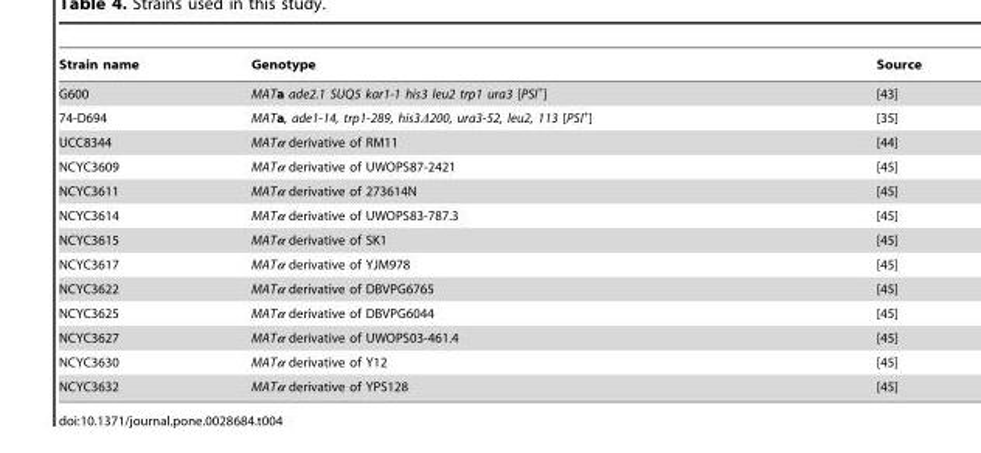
<table><thead><tr><td>Strain name</td><td>Genotype</td><td>Source</td></tr></thead><tbody><tr><td>G600</td><td>MATa ade2.1 SUQ5 kar1-1 his3 leu2 trp1 ura3 [PSI<sup>+</sup>]</td><td>[43]</td></tr><tr><td>74-D694</td><td>MATa, ade1-14, trp1-289, his3Δ200, ura3-52, leu2, 113 [PSI<sup>+</sup>]</td><td>[35]</td></tr><tr><td>UCC8344</td><td>MATα derivative of RM11</td><td>[44]</td></tr><tr><td>NCYC3609</td><td>MATα derivative of UWOPS87-2421</td><td>[45]</td></tr><tr><td>NCYC3611</td><td>MATα derivative of 273614N</td><td>[45]</td></tr><tr><td>NCYC3614</td><td>MATα derivative of UWOPS83-787.3</td><td>[45]</td></tr><tr><td>NCYC3615</td><td>MATα derivative of SK1</td><td>[45]</td></tr><tr><td>NCYC3617</td><td>MATα derivative of YJM978</td><td>[45]</td></tr><tr><td>NCYC3622</td><td>MATα derivative of DBVPG6765</td><td>[45]</td></tr><tr><td>NCYC3625</td><td>MATα derivative of DBVPG6044</td><td>[45]</td></tr><tr><td>NCYC3627</td><td>MATα derivative of UWOPS03-461.4</td><td>[45]</td></tr><tr><td>NCYC3630</td><td>MATα derivative of Y12</td><td>[45]</td></tr><tr><td>NCYC3632</td><td>MATα derivative of YPS128</td><td>[45]</td></tr></tbody></table>